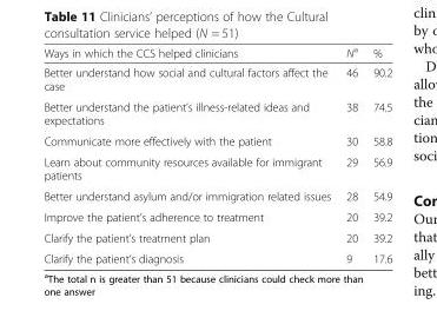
<table><thead><tr><td>Ways in which the CCS helped clinicians</td><td>N<sup>a</sup></td><td>%</td></tr></thead><tbody><tr><td>Better understand how social and cultural factors affect the case</td><td>46</td><td>90.2</td></tr><tr><td>Better understand the patient’s illness-related ideas and expectations</td><td>38</td><td>74.5</td></tr><tr><td>Communicate more effectively with the patient</td><td>30</td><td>58.8</td></tr><tr><td>Learn about community resources available for immigrant patients</td><td>29</td><td>56.9</td></tr><tr><td>Better understand asylum and/or immigration related issues</td><td>28</td><td>54.9</td></tr><tr><td>Improve the patient’s adherence to treatment</td><td>20</td><td>39.2</td></tr><tr><td>Clarify the patient’s treatment plan</td><td>20</td><td>39.2</td></tr><tr><td>Clarify the patient’s diagnosis</td><td>9</td><td>17.6</td></tr></tbody></table>